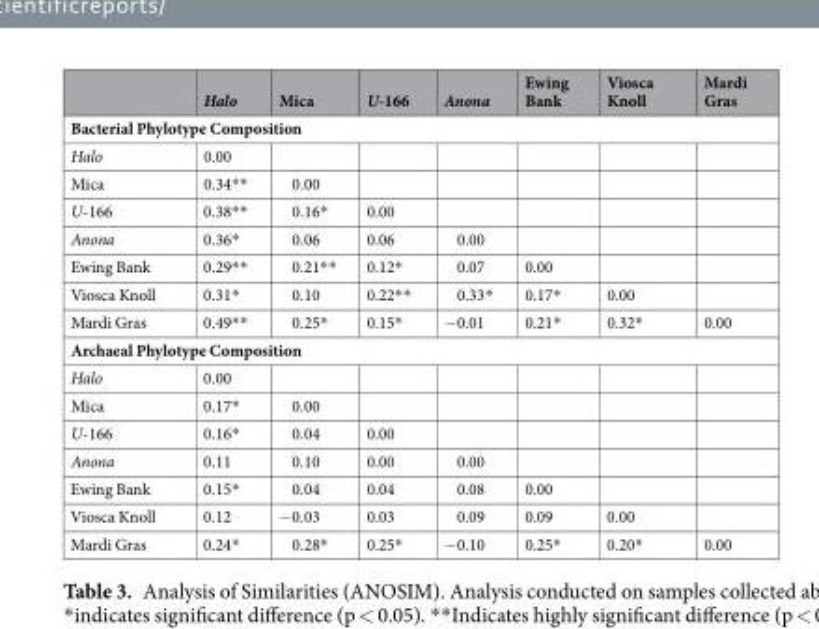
<table><thead><tr><td></td><td>Halo</td><td>Mica</td><td>U-166</td><td>Anona</td><td>Ewing Bank</td><td>Viosca Knoll</td><td>Mardi Gras</td></tr></thead><tbody><tr><td colspan="8">Bacterial Phylotype Composition</td></tr><tr><td>Halo</td><td>0.00</td><td></td><td></td><td></td><td></td><td></td><td></td></tr><tr><td>Mica</td><td>0.34**</td><td>0.00</td><td></td><td></td><td></td><td></td><td></td></tr><tr><td>U-166</td><td>0.38**</td><td>0.16*</td><td>0.00</td><td></td><td></td><td></td><td></td></tr><tr><td>Anona</td><td>0.36*</td><td>0.06</td><td>0.06</td><td>0.00</td><td></td><td></td><td></td></tr><tr><td>Ewing Bank</td><td>0.29**</td><td>0.21**</td><td>0.12*</td><td>0.07</td><td>0.00</td><td></td><td></td></tr><tr><td>Viosca Knoll</td><td>0.31*</td><td>0.10</td><td>0.22**</td><td>0.33*</td><td>0.17*</td><td>0.00</td><td></td></tr><tr><td>Mardi Gras</td><td>0.49**</td><td>0.25*</td><td>0.15*</td><td>−0.01</td><td>0.21*</td><td>0.32*</td><td>0.00</td></tr><tr><td colspan="8">Archaeal Phylotype Composition</td></tr><tr><td>Halo</td><td>0.00</td><td></td><td></td><td></td><td></td><td></td><td></td></tr><tr><td>Mica</td><td>0.17*</td><td>0.00</td><td></td><td></td><td></td><td></td><td></td></tr><tr><td>U-166</td><td>0.16*</td><td>0.04</td><td>0.00</td><td></td><td></td><td></td><td></td></tr><tr><td>Anona</td><td>0.11</td><td>0.10</td><td>0.00</td><td>0.00</td><td></td><td></td><td></td></tr><tr><td>Ewing Bank</td><td>0.15*</td><td>0.04</td><td>0.04</td><td>0.08</td><td>0.00</td><td></td><td></td></tr><tr><td>Viosca Knoll</td><td>0.12</td><td>−0.03</td><td>0.03</td><td>0.09</td><td>0.09</td><td>0.00</td><td></td></tr><tr><td>Mardi Gras</td><td>0.24*</td><td>0.28*</td><td>0.25*</td><td>−0.10</td><td>0.25*</td><td>0.20*</td><td>0.00</td></tr></tbody></table>